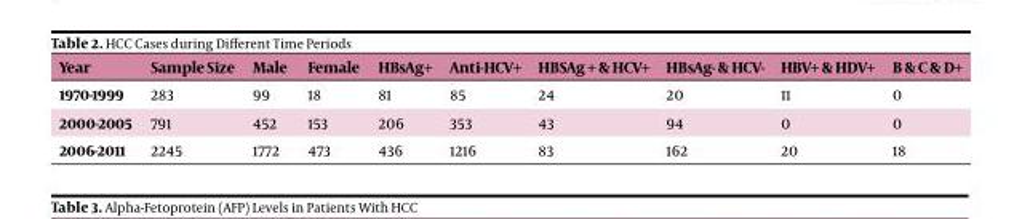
<table><thead><tr><td>Year</td><td>Sample Size</td><td>Male</td><td>Female</td><td>HBsAg+</td><td>Anti-HCV+</td><td>HBSAg + &amp; HCV+</td><td>HBsAg- &amp; HCV-</td><td>HBV+ &amp; HDV+</td><td>B &amp; C &amp; D+</td></tr></thead><tbody><tr><td>1970-1999</td><td>283</td><td>99</td><td>18</td><td>81</td><td>85</td><td>24</td><td>20</td><td>11</td><td>0</td></tr><tr><td>2000-2005</td><td>791</td><td>452</td><td>153</td><td>206</td><td>353</td><td>43</td><td>94</td><td>0</td><td>0</td></tr><tr><td>2006-2011</td><td>2245</td><td>1772</td><td>473</td><td>436</td><td>1216</td><td>83</td><td>162</td><td>20</td><td>18</td></tr></tbody></table>